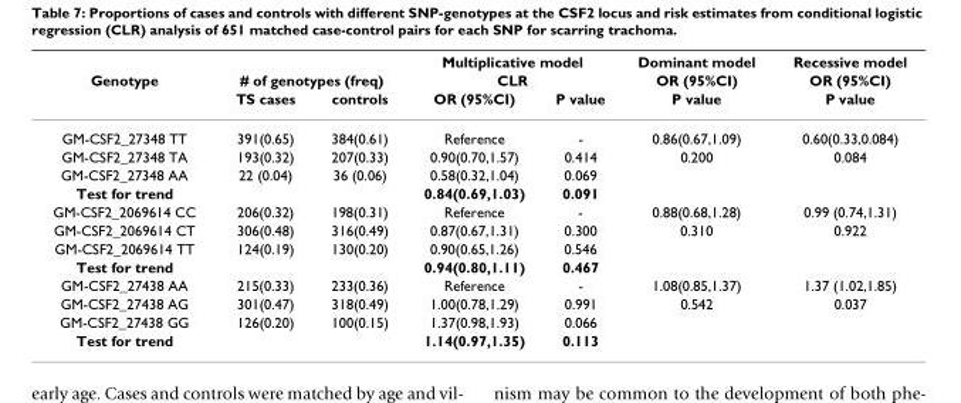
<table><thead><tr><td rowspan="3">Genotype</td><td></td><td></td><td rowspan="2" colspan="2">Multiplicative model CLR</td><td rowspan="3">Dominant model OR (95%CI) P value</td><td rowspan="3">Recessive model OR (95%CI) P value</td></tr><tr><td colspan="2"># of genotypes (freq)</td></tr><tr><td>TS cases</td><td>controls</td><td>OR (95%CI)</td><td>P value</td></tr></thead><tbody><tr><td>GM-CSF2_27348 TT</td><td>391(0.65)</td><td>384(0.61)</td><td>Reference</td><td>-</td><td>0.86(0.67,1.09)</td><td>0.60(0.33,0.084)</td></tr><tr><td>GM-CSF2_27348 TA</td><td>193(0.32)</td><td>207(0.33)</td><td>0.90(0.70,1.57)</td><td>0.414</td><td>0.200</td><td>0.084</td></tr><tr><td>GM-CSF2_27348 AA</td><td>22 (0.04)</td><td>36 (0.06)</td><td>0.58(0.32,1.04)</td><td>0.069</td><td></td><td></td></tr><tr><td>Test for trend</td><td></td><td></td><td>0.84(0.69,1.03)</td><td>0.091</td><td></td><td></td></tr><tr><td>GM-CSF2_2069614 CC</td><td>206(0.32)</td><td>198(0.31)</td><td>Reference</td><td>-</td><td>0.88(0.68,1.28)</td><td>0.99 (0.74,1.31)</td></tr><tr><td>GM-CSF2_2069614 CT</td><td>306(0.48)</td><td>316(0.49)</td><td>0.87(0.67,1.31)</td><td>0.300</td><td>0.310</td><td>0.922</td></tr><tr><td>GM-CSF2_2069614 TT</td><td>124(0.19)</td><td>130(0.20)</td><td>0.90(0.65,1.26)</td><td>0.546</td><td></td><td></td></tr><tr><td>Test for trend</td><td></td><td></td><td>0.94(0.80,1.11)</td><td>0.467</td><td></td><td></td></tr><tr><td>GM-CSF2_27438 AA</td><td>215(0.33)</td><td>233(0.36)</td><td>Reference</td><td>-</td><td>1.08(0.85,1.37)</td><td>1.37 (1.02,1.85)</td></tr><tr><td>GM-CSF2_27438 AG</td><td>301(0.47)</td><td>318(0.49)</td><td>1.00(0.78,1.29)</td><td>0.991</td><td>0.542</td><td>0.037</td></tr><tr><td>GM-CSF2_27438 GG</td><td>126(0.20)</td><td>100(0.15)</td><td>1.37(0.98,1.93)</td><td>0.066</td><td></td><td></td></tr><tr><td>Test for trend</td><td></td><td></td><td>1.14(0.97,1.35)</td><td>0.113</td><td></td><td></td></tr></tbody></table>